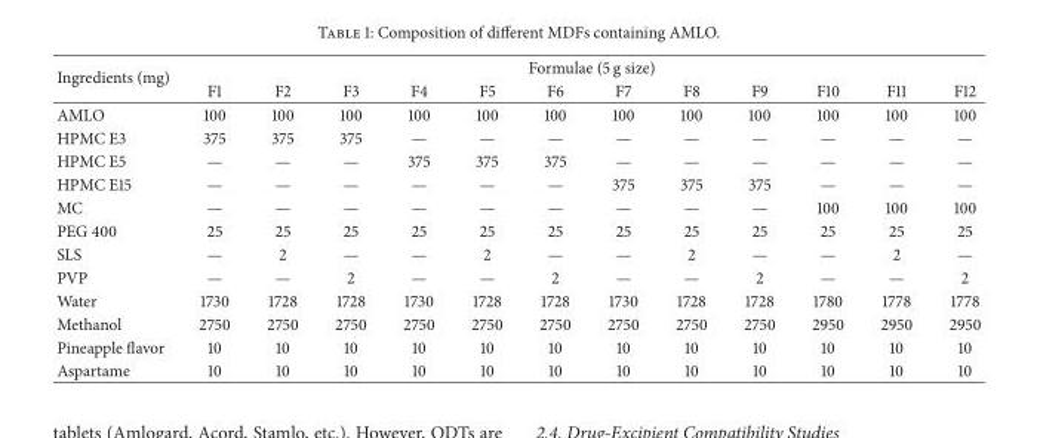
<table><thead><tr><td rowspan="2">Ingredients (mg)</td><td colspan="12">Formulae (5 g size)</td></tr><tr><td>F1</td><td>F2</td><td>F3</td><td>F4</td><td>F5</td><td>F6</td><td>F7</td><td>F8</td><td>F9</td><td>F10</td><td>F11</td><td>F12</td></tr></thead><tbody><tr><td>AMLO</td><td>100</td><td>100</td><td>100</td><td>100</td><td>100</td><td>100</td><td>100</td><td>100</td><td>100</td><td>100</td><td>100</td><td>100</td></tr><tr><td>HPMC E3</td><td>375</td><td>375</td><td>375</td><td>—</td><td>—</td><td>—</td><td>—</td><td>—</td><td>—</td><td>—</td><td>—</td><td>—</td></tr><tr><td>HPMC E5</td><td>—</td><td>—</td><td>—</td><td>375</td><td>375</td><td>375</td><td>—</td><td>—</td><td>—</td><td>—</td><td>—</td><td>—</td></tr><tr><td>HPMC E15</td><td>—</td><td>—</td><td>—</td><td>—</td><td>—</td><td>—</td><td>375</td><td>375</td><td>375</td><td>—</td><td>—</td><td>—</td></tr><tr><td>MC</td><td>—</td><td>—</td><td>—</td><td>—</td><td>—</td><td>—</td><td>—</td><td>—</td><td>—</td><td>100</td><td>100</td><td>100</td></tr><tr><td>PEG 400</td><td>25</td><td>25</td><td>25</td><td>25</td><td>25</td><td>25</td><td>25</td><td>25</td><td>25</td><td>25</td><td>25</td><td>25</td></tr><tr><td>SLS</td><td>—</td><td>2</td><td>—</td><td>—</td><td>2</td><td>—</td><td>—</td><td>2</td><td>—</td><td>—</td><td>2</td><td>—</td></tr><tr><td>PVP</td><td>—</td><td>—</td><td>2</td><td>—</td><td>—</td><td>2</td><td>—</td><td>—</td><td>2</td><td>—</td><td>—</td><td>2</td></tr><tr><td>Water</td><td>1730</td><td>1728</td><td>1728</td><td>1730</td><td>1728</td><td>1728</td><td>1730</td><td>1728</td><td>1728</td><td>1780</td><td>1778</td><td>1778</td></tr><tr><td>Methanol</td><td>2750</td><td>2750</td><td>2750</td><td>2750</td><td>2750</td><td>2750</td><td>2750</td><td>2750</td><td>2750</td><td>2950</td><td>2950</td><td>2950</td></tr><tr><td>Pineapple flavor</td><td>10</td><td>10</td><td>10</td><td>10</td><td>10</td><td>10</td><td>10</td><td>10</td><td>10</td><td>10</td><td>10</td><td>10</td></tr><tr><td>Aspartame</td><td>10</td><td>10</td><td>10</td><td>10</td><td>10</td><td>10</td><td>10</td><td>10</td><td>10</td><td>10</td><td>10</td><td>10</td></tr></tbody></table>